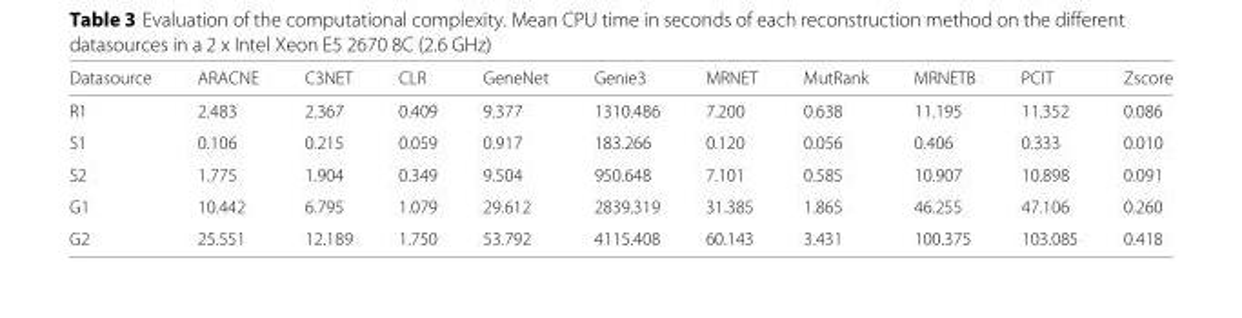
<table><thead><tr><td>Datasource</td><td>ARACNE</td><td>C3NET</td><td>CLR</td><td>GeneNet</td><td>Genie3</td><td>MRNET</td><td>MutRank</td><td>MRNETB</td><td>PCIT</td><td>Zscore</td></tr></thead><tbody><tr><td>R1</td><td>2.483</td><td>2.367</td><td>0.409</td><td>9.377</td><td>1310.486</td><td>7.200</td><td>0.638</td><td>11.195</td><td>11.352</td><td>0.086</td></tr><tr><td>S1</td><td>0.106</td><td>0.215</td><td>0.059</td><td>0.917</td><td>183.266</td><td>0.120</td><td>0.056</td><td>0.406</td><td>0.333</td><td>0.010</td></tr><tr><td>S2</td><td>1.775</td><td>1.904</td><td>0.349</td><td>9.504</td><td>950.648</td><td>7.101</td><td>0.585</td><td>10.907</td><td>10.898</td><td>0.091</td></tr><tr><td>G1</td><td>10.442</td><td>6.795</td><td>1.079</td><td>29.612</td><td>2839.319</td><td>31.385</td><td>1.865</td><td>46.255</td><td>47.106</td><td>0.260</td></tr><tr><td>G2</td><td>25.551</td><td>12.189</td><td>1.750</td><td>53.792</td><td>4115.408</td><td>60.143</td><td>3.431</td><td>100.375</td><td>103.085</td><td>0.418</td></tr></tbody></table>